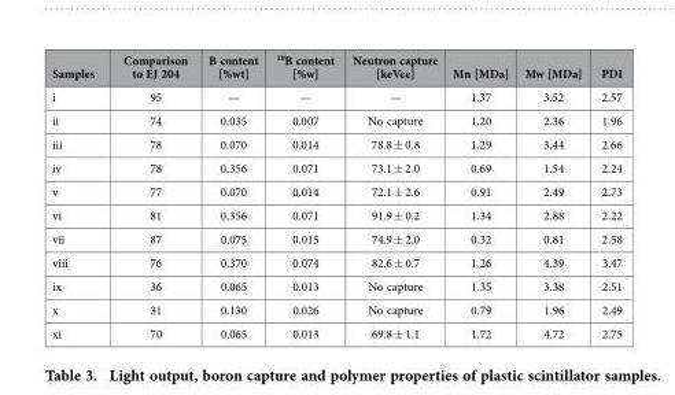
<table><thead><tr><td>Samples</td><td>Comparison to EJ 204</td><td>B content [%wt]</td><td><sup>10</sup>B content [%w]</td><td>Neutron capture [keVee]</td><td>Mn [MDa]</td><td>Mw [MDa]</td><td>PDI</td></tr></thead><tbody><tr><td>i</td><td>95</td><td>—</td><td>—</td><td>—</td><td>1.37</td><td>3.52</td><td>2.57</td></tr><tr><td>ii</td><td>74</td><td>0.035</td><td>0.007</td><td>No capture</td><td>1.20</td><td>2.36</td><td>1.96</td></tr><tr><td>iii</td><td>78</td><td>0.070</td><td>0.014</td><td>78.8 ± 0.8</td><td>1.29</td><td>3.44</td><td>2.66</td></tr><tr><td>iv</td><td>78</td><td>0.356</td><td>0.071</td><td>73.1 ± 2.0</td><td>0.69</td><td>1.54</td><td>2.24</td></tr><tr><td>v</td><td>77</td><td>0.070</td><td>0.014</td><td>72.1 ± 2.6</td><td>0.91</td><td>2.49</td><td>2.73</td></tr><tr><td>vi</td><td>81</td><td>0.356</td><td>0.071</td><td>91.9 ± 0.2</td><td>1.34</td><td>2.88</td><td>2.22</td></tr><tr><td>vii</td><td>87</td><td>0.075</td><td>0.015</td><td>74.9 ± 2.0</td><td>0.32</td><td>0.81</td><td>2.58</td></tr><tr><td>viii</td><td>76</td><td>0.370</td><td>0.074</td><td>82.6 ± 0.7</td><td>1.26</td><td>4.39</td><td>3.47</td></tr><tr><td>ix</td><td>36</td><td>0.065</td><td>0.013</td><td>No capture</td><td>1.35</td><td>3.38</td><td>2.51</td></tr><tr><td>x</td><td>31</td><td>0.130</td><td>0.026</td><td>No capture</td><td>0.79</td><td>1.96</td><td>2.49</td></tr><tr><td>xi</td><td>70</td><td>0.065</td><td>0.013</td><td>69.8 ± 1.1</td><td>1.72</td><td>4.72</td><td>2.75</td></tr></tbody></table>